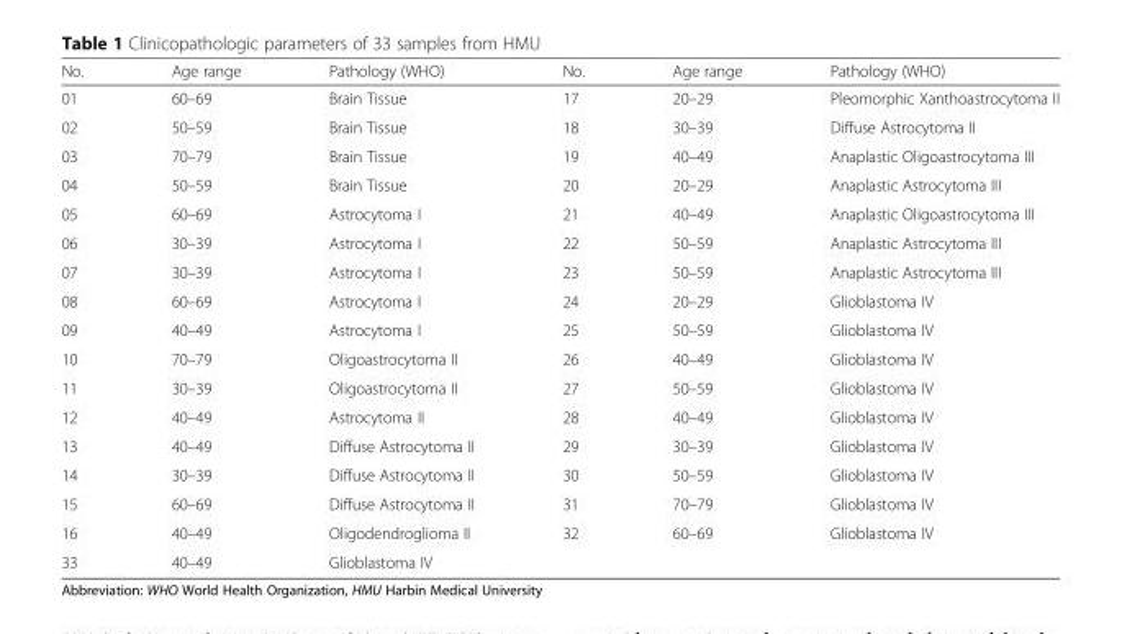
<table><thead><tr><td>No.</td><td>Age range</td><td>Pathology (WHO)</td><td>No.</td><td>Age range</td><td>Pathology (WHO)</td></tr></thead><tbody><tr><td>01</td><td>60–69</td><td>Brain Tissue</td><td>17</td><td>20–29</td><td>Pleomorphic Xanthoastrocytoma II</td></tr><tr><td>02</td><td>50–59</td><td>Brain Tissue</td><td>18</td><td>30–39</td><td>Diffuse Astrocytoma II</td></tr><tr><td>03</td><td>70–79</td><td>Brain Tissue</td><td>19</td><td>40–49</td><td>Anaplastic Oligoastrocytoma III</td></tr><tr><td>04</td><td>50–59</td><td>Brain Tissue</td><td>20</td><td>20–29</td><td>Anaplastic Astrocytoma III</td></tr><tr><td>05</td><td>60–69</td><td>Astrocytoma I</td><td>21</td><td>40–49</td><td>Anaplastic Oligoastrocytoma III</td></tr><tr><td>06</td><td>30–39</td><td>Astrocytoma I</td><td>22</td><td>50–59</td><td>Anaplastic Astrocytoma III</td></tr><tr><td>07</td><td>30–39</td><td>Astrocytoma I</td><td>23</td><td>50–59</td><td>Anaplastic Astrocytoma III</td></tr><tr><td>08</td><td>60–69</td><td>Astrocytoma I</td><td>24</td><td>20–29</td><td>Glioblastoma IV</td></tr><tr><td>09</td><td>40–49</td><td>Astrocytoma I</td><td>25</td><td>50–59</td><td>Glioblastoma IV</td></tr><tr><td>10</td><td>70–79</td><td>Oligoastrocytoma II</td><td>26</td><td>40–49</td><td>Glioblastoma IV</td></tr><tr><td>11</td><td>30–39</td><td>Oligoastrocytoma II</td><td>27</td><td>50–59</td><td>Glioblastoma IV</td></tr><tr><td>12</td><td>40–49</td><td>Astrocytoma II</td><td>28</td><td>40–49</td><td>Glioblastoma IV</td></tr><tr><td>13</td><td>40–49</td><td>Diffuse Astrocytoma II</td><td>29</td><td>30–39</td><td>Glioblastoma IV</td></tr><tr><td>14</td><td>30–39</td><td>Diffuse Astrocytoma II</td><td>30</td><td>50–59</td><td>Glioblastoma IV</td></tr><tr><td>15</td><td>60–69</td><td>Diffuse Astrocytoma II</td><td>31</td><td>70–79</td><td>Glioblastoma IV</td></tr><tr><td>16</td><td>40–49</td><td>Oligodendroglioma II</td><td>32</td><td>60–69</td><td>Glioblastoma IV</td></tr><tr><td>33</td><td>40–49</td><td>Glioblastoma IV</td><td colspan="3"></td></tr></tbody></table>